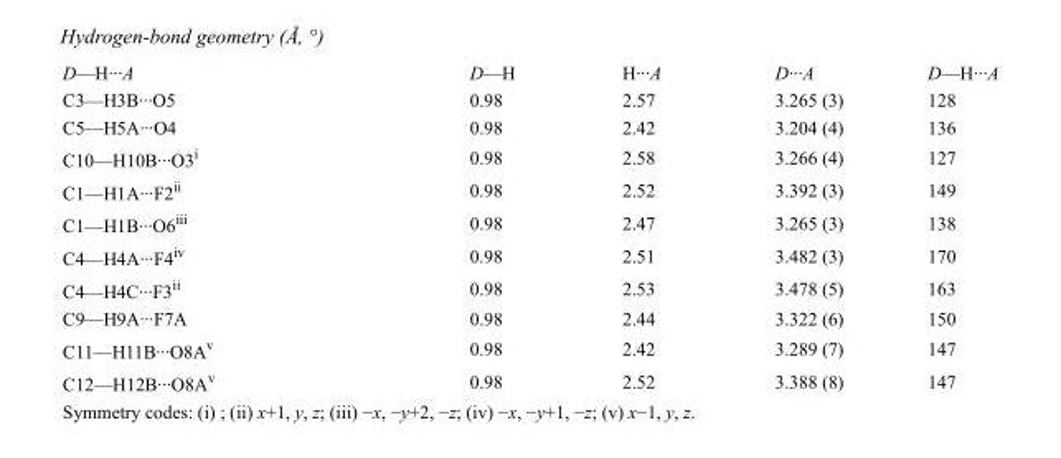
<table><tbody><tr><td>D—H···A</td><td>D—H</td><td>H···A</td><td>D···A</td><td>D—H···A</td></tr><tr><td>C3—H3B···O5</td><td>0.98</td><td>2.57</td><td>3.265 (3)</td><td>128</td></tr><tr><td>C5—H5A···O4</td><td>0.98</td><td>2.42</td><td>3.204 (4)</td><td>136</td></tr><tr><td>C10—H10B···O3<sup>i</sup></td><td>0.98</td><td>2.58</td><td>3.266 (4)</td><td>127</td></tr><tr><td>C1—H1A···F2<sup>ii</sup></td><td>0.98</td><td>2.52</td><td>3.392 (3)</td><td>149</td></tr><tr><td>C1—H1B···O6<sup>iii</sup></td><td>0.98</td><td>2.47</td><td>3.265 (3)</td><td>138</td></tr><tr><td>C4—H4A···F4<sup>iv</sup></td><td>0.98</td><td>2.51</td><td>3.482 (3)</td><td>170</td></tr><tr><td>C4—H4C···F3<sup>ii</sup></td><td>0.98</td><td>2.53</td><td>3.478 (5)</td><td>163</td></tr><tr><td>C9—H9A···F7A</td><td>0.98</td><td>2.44</td><td>3.322 (6)</td><td>150</td></tr><tr><td>C11—H11B···O8A<sup>v</sup></td><td>0.98</td><td>2.42</td><td>3.289 (7)</td><td>147</td></tr><tr><td>C12—H12B···O8A<sup>v</sup></td><td>0.98</td><td>2.52</td><td>3.388 (8)</td><td>147</td></tr></tbody></table>